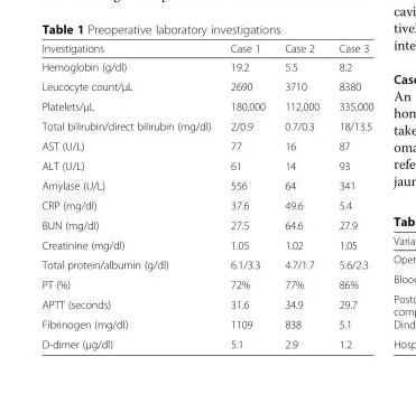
<table><thead><tr><td>Investigations</td><td>Case 1</td><td>Case 2</td><td>Case 3</td></tr></thead><tbody><tr><td>Hemoglobin (g/dl)</td><td>19.2</td><td>5.5</td><td>8.2</td></tr><tr><td>Leucocyte count/μL</td><td>2690</td><td>3710</td><td>8380</td></tr><tr><td>Platelets/μL</td><td>180,000</td><td>112,000</td><td>335,000</td></tr><tr><td>Total bilirubin/direct bilirubin (mg/dl)</td><td>2/0.9</td><td>0.7/0.3</td><td>18/13.5</td></tr><tr><td>AST (U/L)</td><td>77</td><td>16</td><td>87</td></tr><tr><td>ALT (U/L)</td><td>61</td><td>14</td><td>93</td></tr><tr><td>Amylase (U/L)</td><td>556</td><td>64</td><td>341</td></tr><tr><td>CRP (mg/dl)</td><td>37.6</td><td>49.6</td><td>5.4</td></tr><tr><td>BUN (mg/dl)</td><td>27.5</td><td>64.6</td><td>27.9</td></tr><tr><td>Creatinine (mg/dl)</td><td>1.05</td><td>1.02</td><td>1.05</td></tr><tr><td>Total protein/albumin (g/dl)</td><td>6.1/3.3</td><td>4.7/1.7</td><td>5.6/2.3</td></tr><tr><td>PT (%)</td><td>72%</td><td>77%</td><td>86%</td></tr><tr><td>APTT (seconds)</td><td>31.6</td><td>34.9</td><td>29.7</td></tr><tr><td>Fibrinogen (mg/dl)</td><td>1109</td><td>838</td><td>5.1</td></tr><tr><td>D-dimer (μg/dl)</td><td>5.1</td><td>2.9</td><td>1.2</td></tr></tbody></table>